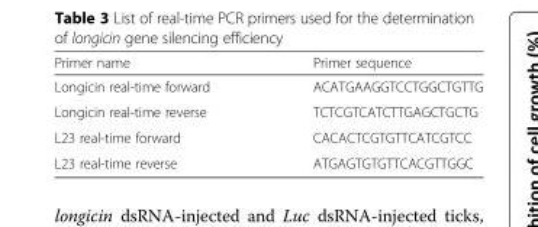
<table><thead><tr><td>Primer name</td><td>Primer sequence</td></tr></thead><tbody><tr><td>Longicin real-time forward</td><td>ACATGAAGGTCCTGGCTGTTG</td></tr><tr><td>Longicin real-time reverse</td><td>TCTCGTCATCTTGAGCTGCTG</td></tr><tr><td>L23 real-time forward</td><td>CACACTCGTGTTCATCGTCC</td></tr><tr><td>L23 real-time reverse</td><td>ATGAGTGTGTTCACGTTGGC</td></tr></tbody></table>